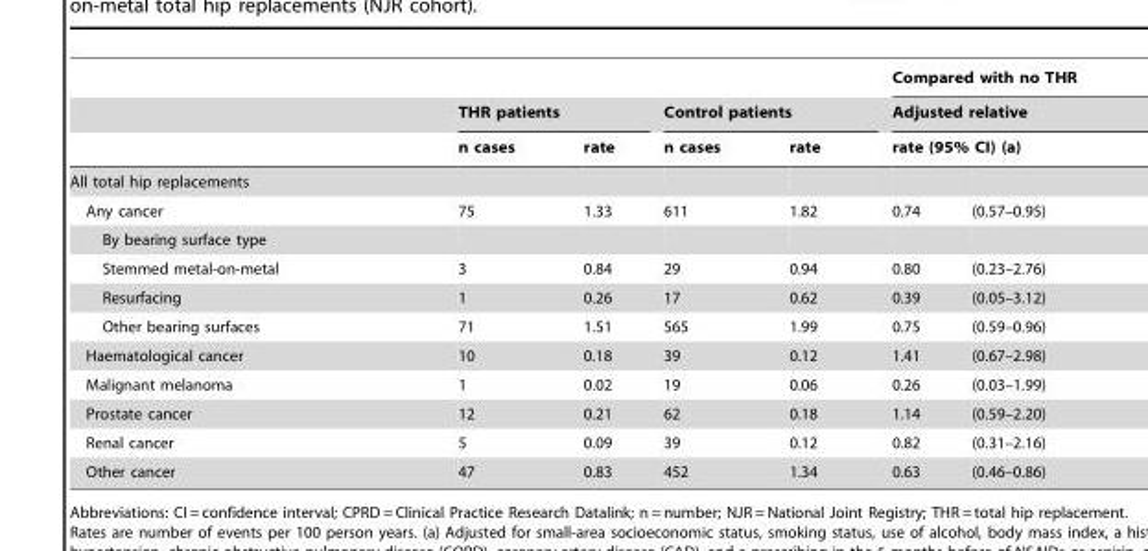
<table><thead><tr><td rowspan="3"></td><td></td><td></td><td></td><td></td><td rowspan="3" colspan="2">Compared with no THR Adjusted relative rate (95% CI) (a)</td></tr><tr><td colspan="2">THR patients</td><td colspan="2">Control patients</td></tr><tr><td>n cases</td><td rowspan="2">rate</td><td rowspan="2">n cases</td><td rowspan="2">rate</td></tr><tr><td colspan="2">All total hip replacements</td><td></td><td></td></tr></thead><tbody><tr><td>Any cancer</td><td>75</td><td>1.33</td><td>611</td><td>1.82</td><td>0.74</td><td>(0.57–0.95)</td></tr><tr><td colspan="7">By bearing surface type</td></tr><tr><td>Stemmed metal-on-metal</td><td>3</td><td>0.84</td><td>29</td><td>0.94</td><td>0.80</td><td>(0.23–2.76)</td></tr><tr><td>Resurfacing</td><td>1</td><td>0.26</td><td>17</td><td>0.62</td><td>0.39</td><td>(0.05–3.12)</td></tr><tr><td>Other bearing surfaces</td><td>71</td><td>1.51</td><td>565</td><td>1.99</td><td>0.75</td><td>(0.59–0.96)</td></tr><tr><td>Haematological cancer</td><td>10</td><td>0.18</td><td>39</td><td>0.12</td><td>1.41</td><td>(0.67–2.98)</td></tr><tr><td>Malignant melanoma</td><td>1</td><td>0.02</td><td>19</td><td>0.06</td><td>0.26</td><td>(0.03–1.99)</td></tr><tr><td>Prostate cancer</td><td>12</td><td>0.21</td><td>62</td><td>0.18</td><td>1.14</td><td>(0.59–2.20)</td></tr><tr><td>Renal cancer</td><td>5</td><td>0.09</td><td>39</td><td>0.12</td><td>0.82</td><td>(0.31–2.16)</td></tr><tr><td>Other cancer</td><td>47</td><td>0.83</td><td>452</td><td>1.34</td><td>0.63</td><td>(0.46–0.86)</td></tr></tbody></table>